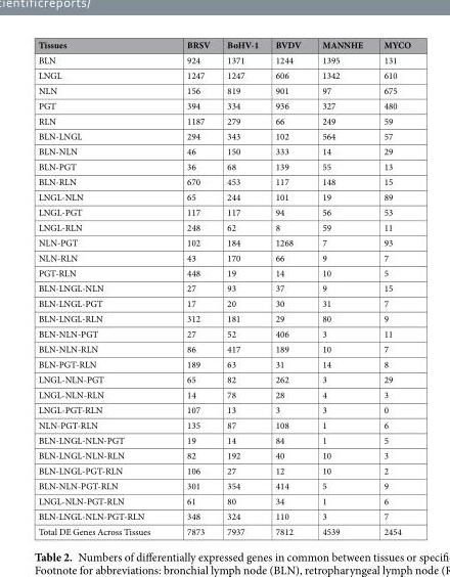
<table><thead><tr><td>Tissues</td><td>BRSV</td><td>BoHV-1</td><td>BVDV</td><td>MANNHE</td><td>MYCO</td></tr></thead><tbody><tr><td>BLN</td><td>924</td><td>1371</td><td>1244</td><td>1395</td><td>131</td></tr><tr><td>LNGL</td><td>1247</td><td>1247</td><td>606</td><td>1342</td><td>610</td></tr><tr><td>NLN</td><td>156</td><td>819</td><td>901</td><td>97</td><td>675</td></tr><tr><td>PGT</td><td>394</td><td>334</td><td>936</td><td>327</td><td>480</td></tr><tr><td>RLN</td><td>1187</td><td>279</td><td>66</td><td>249</td><td>59</td></tr><tr><td>BLN-LNGL</td><td>294</td><td>343</td><td>102</td><td>564</td><td>57</td></tr><tr><td>BLN-NLN</td><td>46</td><td>150</td><td>333</td><td>14</td><td>29</td></tr><tr><td>BLN-PGT</td><td>36</td><td>68</td><td>139</td><td>55</td><td>13</td></tr><tr><td>BLN-RLN</td><td>670</td><td>453</td><td>117</td><td>148</td><td>15</td></tr><tr><td>LNGL-NLN</td><td>65</td><td>244</td><td>101</td><td>19</td><td>89</td></tr><tr><td>LNGL-PGT</td><td>117</td><td>117</td><td>94</td><td>56</td><td>53</td></tr><tr><td>LNGL-RLN</td><td>248</td><td>62</td><td>8</td><td>59</td><td>11</td></tr><tr><td>NLN-PGT</td><td>102</td><td>184</td><td>1268</td><td>7</td><td>93</td></tr><tr><td>NLN-RLN</td><td>43</td><td>170</td><td>66</td><td>9</td><td>7</td></tr><tr><td>PGT-RLN</td><td>448</td><td>19</td><td>14</td><td>10</td><td>5</td></tr><tr><td>BLN-LNGL-NLN</td><td>27</td><td>93</td><td>37</td><td>9</td><td>15</td></tr><tr><td>BLN-LNGL-PGT</td><td>17</td><td>20</td><td>30</td><td>31</td><td>7</td></tr><tr><td>BLN-LNGL-RLN</td><td>312</td><td>181</td><td>29</td><td>80</td><td>9</td></tr><tr><td>BLN-NLN-PGT</td><td>27</td><td>52</td><td>406</td><td>3</td><td>11</td></tr><tr><td>BLN-NLN-RLN</td><td>86</td><td>417</td><td>189</td><td>10</td><td>7</td></tr><tr><td>BLN-PGT-RLN</td><td>189</td><td>63</td><td>31</td><td>14</td><td>8</td></tr><tr><td>LNGL-NLN-PGT</td><td>65</td><td>82</td><td>262</td><td>3</td><td>29</td></tr><tr><td>LNGL-NLN-RLN</td><td>14</td><td>78</td><td>28</td><td>4</td><td>3</td></tr><tr><td>LNGL-PGT-RLN</td><td>107</td><td>13</td><td>3</td><td>3</td><td>0</td></tr><tr><td>NLN-PGT-RLN</td><td>135</td><td>87</td><td>108</td><td>1</td><td>6</td></tr><tr><td>BLN-LNGL-NLN-PGT</td><td>19</td><td>14</td><td>84</td><td>1</td><td>5</td></tr><tr><td>BLN-LNGL-NLN-RLN</td><td>82</td><td>192</td><td>40</td><td>10</td><td>3</td></tr><tr><td>BLN-LNGL-PGT-RLN</td><td>106</td><td>27</td><td>12</td><td>10</td><td>2</td></tr><tr><td>BLN-NLN-PGT-RLN</td><td>301</td><td>354</td><td>414</td><td>5</td><td>9</td></tr><tr><td>LNGL-NLN-PGT-RLN</td><td>61</td><td>80</td><td>34</td><td>1</td><td>6</td></tr><tr><td>BLN-LNGL-NLN-PGT-RLN</td><td>348</td><td>324</td><td>110</td><td>3</td><td>7</td></tr><tr><td>Total DE Genes Across Tissues</td><td>7873</td><td>7937</td><td>7812</td><td>4539</td><td>2454</td></tr></tbody></table>